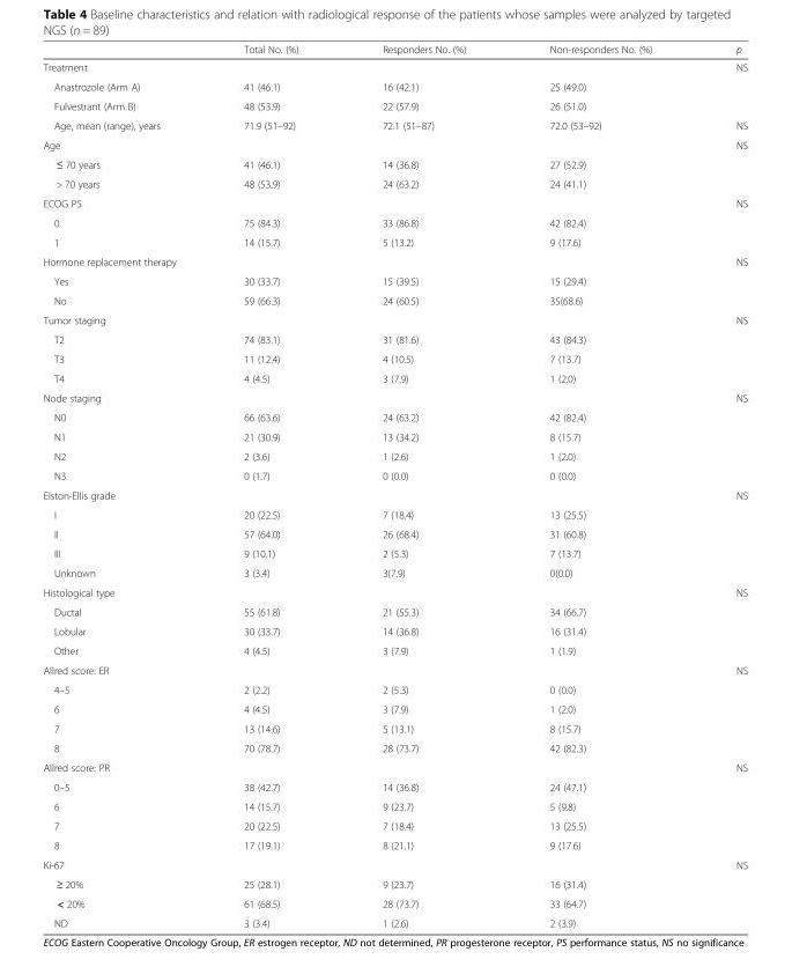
<table><thead><tr><td></td><td>Total No. (%)</td><td>Responders No. (%)</td><td>Non-responders No. (%)</td><td>p</td></tr></thead><tbody><tr><td colspan="4">Treatment</td><td>NS</td></tr><tr><td>Anastrozole (Arm A)</td><td>41 (46.1)</td><td>16 (42.1)</td><td>25 (49.0)</td><td></td></tr><tr><td>Fulvestrant (Arm B)</td><td>48 (53.9)</td><td>22 (57.9)</td><td>26 (51.0)</td><td></td></tr><tr><td>Age, mean (range), years</td><td>71.9 (51–92)</td><td>72.1 (51–87)</td><td>72.0 (53–92)</td><td>NS</td></tr><tr><td colspan="4">Age</td><td>NS</td></tr><tr><td>≤ 70 years</td><td>41 (46.1)</td><td>14 (36.8)</td><td>27 (52.9)</td><td></td></tr><tr><td>&gt; 70 years</td><td>48 (53.9)</td><td>24 (63.2)</td><td>24 (41.1)</td><td></td></tr><tr><td colspan="4">ECOG PS</td><td>NS</td></tr><tr><td>0</td><td>75 (84.3)</td><td>33 (86.8)</td><td>42 (82.4)</td><td></td></tr><tr><td>1</td><td>14 (15.7)</td><td>5 (13.2)</td><td>9 (17.6)</td><td></td></tr><tr><td colspan="4">Hormone replacement therapy</td><td>NS</td></tr><tr><td>Yes</td><td>30 (33.7)</td><td>15 (39.5)</td><td>15 (29.4)</td><td></td></tr><tr><td>No</td><td>59 (66.3)</td><td>24 (60.5)</td><td>35(68.6)</td><td></td></tr><tr><td colspan="4">Tumor staging</td><td>NS</td></tr><tr><td>T2</td><td>74 (83.1)</td><td>31 (81.6)</td><td>43 (84.3)</td><td></td></tr><tr><td>T3</td><td>11 (12.4)</td><td>4 (10.5)</td><td>7 (13.7)</td><td></td></tr><tr><td>T4</td><td>4 (4.5)</td><td>3 (7.9)</td><td>1 (2.0)</td><td></td></tr><tr><td colspan="4">Node staging</td><td>NS</td></tr><tr><td>N0</td><td>66 (63.6)</td><td>24 (63.2)</td><td>42 (82.4)</td><td></td></tr><tr><td>N1</td><td>21 (30.9)</td><td>13 (34.2)</td><td>8 (15.7)</td><td></td></tr><tr><td>N2</td><td>2 (3.6)</td><td>1 (2.6)</td><td>1 (2.0)</td><td></td></tr><tr><td>N3</td><td>0 (1.7)</td><td>0 (0.0)</td><td>0 (0.0)</td><td></td></tr><tr><td colspan="4">Elston-Ellis grade</td><td>NS</td></tr><tr><td>I</td><td>20 (22.5)</td><td>7 (18.4)</td><td>13 (25.5)</td><td></td></tr><tr><td>II</td><td>57 (64.0)</td><td>26 (68.4)</td><td>31 (60.8)</td><td></td></tr><tr><td>III</td><td>9 (10.1)</td><td>2 (5.3)</td><td>7 (13.7)</td><td></td></tr><tr><td>Unknown</td><td>3 (3.4)</td><td>3(7.9)</td><td>0(0.0)</td><td></td></tr><tr><td colspan="4">Histological type</td><td>NS</td></tr><tr><td>Ductal</td><td>55 (61.8)</td><td>21 (55.3)</td><td>34 (66.7)</td><td></td></tr><tr><td>Lobular</td><td>30 (33.7)</td><td>14 (36.8)</td><td>16 (31.4)</td><td></td></tr><tr><td>Other</td><td>4 (4.5)</td><td>3 (7.9)</td><td>1 (1.9)</td><td></td></tr><tr><td colspan="4">Allred score: ER</td><td>NS</td></tr><tr><td>4–5</td><td>2 (2.2)</td><td>2 (5.3)</td><td>0 (0.0)</td><td></td></tr><tr><td>6</td><td>4 (4.5)</td><td>3 (7.9)</td><td>1 (2.0)</td><td></td></tr><tr><td>7</td><td>13 (14.6)</td><td>5 (13.1)</td><td>8 (15.7)</td><td></td></tr><tr><td>8</td><td>70 (78.7)</td><td>28 (73.7)</td><td>42 (82.3)</td><td></td></tr><tr><td colspan="4">Allred score: PR</td><td>NS</td></tr><tr><td>0–5</td><td>38 (42.7)</td><td>14 (36.8)</td><td>24 (47.1)</td><td></td></tr><tr><td>6</td><td>14 (15.7)</td><td>9 (23.7)</td><td>5 (9.8)</td><td></td></tr><tr><td>7</td><td>20 (22.5)</td><td>7 (18.4)</td><td>13 (25.5)</td><td></td></tr><tr><td>8</td><td>17 (19.1)</td><td>8 (21.1)</td><td>9 (17.6)</td><td></td></tr><tr><td colspan="4">Ki-67</td><td>NS</td></tr><tr><td>≥ 20%</td><td>25 (28.1)</td><td>9 (23.7)</td><td>16 (31.4)</td><td></td></tr><tr><td>&lt; 20%</td><td>61 (68.5)</td><td>28 (73.7)</td><td>33 (64.7)</td><td></td></tr><tr><td>ND</td><td>3 (3.4)</td><td>1 (2.6)</td><td>2 (3.9)</td><td></td></tr></tbody></table>